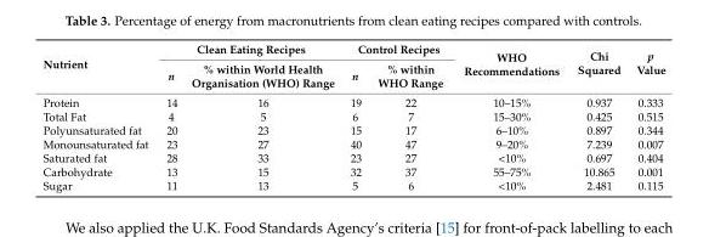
<table><thead><tr><td rowspan="2">Nutrient</td><td colspan="2">Clean Eating Recipes</td><td colspan="2">Control Recipes</td><td rowspan="2">WHO Recommendations</td><td rowspan="2">Chi Squared</td><td rowspan="2">p Value</td></tr><tr><td>n</td><td>% within World Health Organisation (WHO) Range</td><td>n</td><td>% within WHO Range</td></tr></thead><tbody><tr><td>Protein</td><td>14</td><td>16</td><td>19</td><td>22</td><td>10–15%</td><td>0.937</td><td>0.333</td></tr><tr><td>Total Fat</td><td>4</td><td>5</td><td>6</td><td>7</td><td>15–30%</td><td>0.425</td><td>0.515</td></tr><tr><td>Polyunsaturated fat</td><td>20</td><td>23</td><td>15</td><td>17</td><td>6–10%</td><td>0.897</td><td>0.344</td></tr><tr><td>Monounsaturated fat</td><td>23</td><td>27</td><td>40</td><td>47</td><td>9–20%</td><td>7.239</td><td>0.007</td></tr><tr><td>Saturated fat</td><td>28</td><td>33</td><td>23</td><td>27</td><td>&lt;10%</td><td>0.697</td><td>0.404</td></tr><tr><td>Carbohydrate</td><td>13</td><td>15</td><td>32</td><td>37</td><td>55–75%</td><td>10.865</td><td>0.001</td></tr><tr><td>Sugar</td><td>11</td><td>13</td><td>5</td><td>6</td><td>&lt;10%</td><td>2.481</td><td>0.115</td></tr></tbody></table>